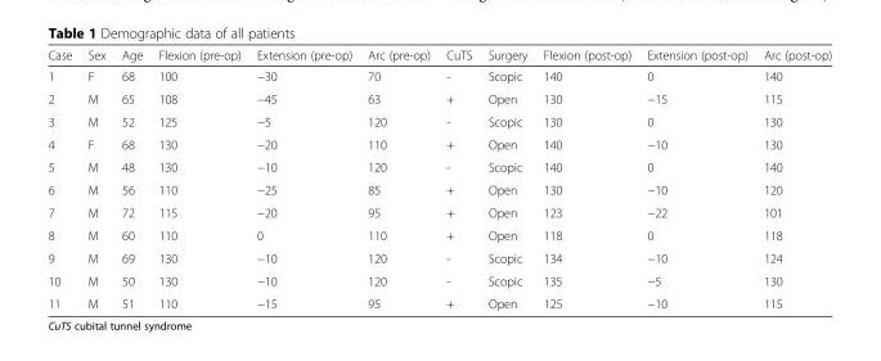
<table><thead><tr><td>Case</td><td>Sex</td><td>Age</td><td>Flexion (pre-op)</td><td>Extension (pre-op)</td><td>Arc (pre-op)</td><td>CuTS</td><td>Surgery</td><td>Flexion (post-op)</td><td>Extension (post-op)</td><td>Arc (post-op)</td></tr></thead><tbody><tr><td>1</td><td>F</td><td>68</td><td>100</td><td>−30</td><td>70</td><td>-</td><td>Scopic</td><td>140</td><td>0</td><td>140</td></tr><tr><td>2</td><td>M</td><td>65</td><td>108</td><td>−45</td><td>63</td><td>+</td><td>Open</td><td>130</td><td>−15</td><td>115</td></tr><tr><td>3</td><td>M</td><td>52</td><td>125</td><td>−5</td><td>120</td><td>-</td><td>Scopic</td><td>130</td><td>0</td><td>130</td></tr><tr><td>4</td><td>F</td><td>68</td><td>130</td><td>−20</td><td>110</td><td>+</td><td>Open</td><td>140</td><td>−10</td><td>130</td></tr><tr><td>5</td><td>M</td><td>48</td><td>130</td><td>−10</td><td>120</td><td>-</td><td>Scopic</td><td>140</td><td>0</td><td>140</td></tr><tr><td>6</td><td>M</td><td>56</td><td>110</td><td>−25</td><td>85</td><td>+</td><td>Open</td><td>130</td><td>−10</td><td>120</td></tr><tr><td>7</td><td>M</td><td>72</td><td>115</td><td>−20</td><td>95</td><td>+</td><td>Open</td><td>123</td><td>−22</td><td>101</td></tr><tr><td>8</td><td>M</td><td>60</td><td>110</td><td>0</td><td>110</td><td>+</td><td>Open</td><td>118</td><td>0</td><td>118</td></tr><tr><td>9</td><td>M</td><td>69</td><td>130</td><td>−10</td><td>120</td><td>-</td><td>Scopic</td><td>134</td><td>−10</td><td>124</td></tr><tr><td>10</td><td>M</td><td>50</td><td>130</td><td>−10</td><td>120</td><td>-</td><td>Scopic</td><td>135</td><td>−5</td><td>130</td></tr><tr><td>11</td><td>M</td><td>51</td><td>110</td><td>−15</td><td>95</td><td>+</td><td>Open</td><td>125</td><td>−10</td><td>115</td></tr></tbody></table>